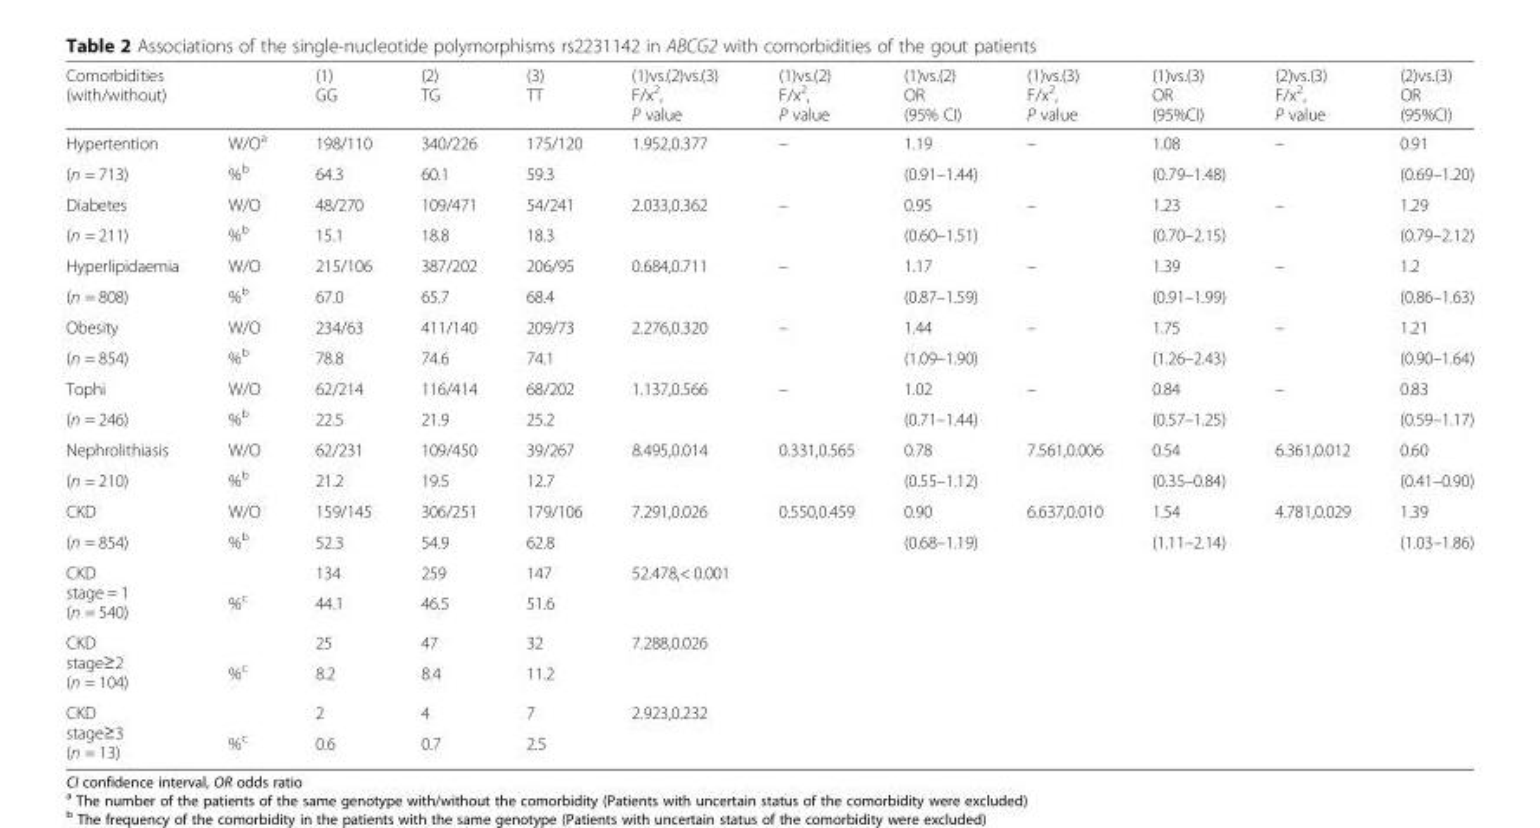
<table><thead><tr><td>Comorbidities (with/without)</td><td></td><td>(1) GG</td><td>(2) TG</td><td>(3) TT</td><td>(1)vs.(2)vs.(3) F/x<sup>2</sup>, P value</td><td>(1)vs.(2) F/x<sup>2</sup>, P value</td><td>(1)vs.(2) OR (95% CI)</td><td>(1)vs.(3) F/x<sup>2</sup>, P value</td><td>(1)vs.(3) OR (95%CI)</td><td>(2)vs.(3) F/x<sup>2</sup>, P value</td><td>(2)vs.(3) OR (95%CI)</td></tr></thead><tbody><tr><td>Hypertention</td><td>W/O<sup>a</sup></td><td>198/110</td><td>340/226</td><td>175/120</td><td>1.952,0.377</td><td>–</td><td>1.19</td><td>–</td><td>1.08</td><td>–</td><td>0.91</td></tr><tr><td>(n = 713)</td><td>%<sup>b</sup></td><td>64.3</td><td>60.1</td><td>59.3</td><td></td><td></td><td>(0.91–1.44)</td><td></td><td>(0.79–1.48)</td><td></td><td>(0.69–1.20)</td></tr><tr><td>Diabetes</td><td>W/O</td><td>48/270</td><td>109/471</td><td>54/241</td><td>2.033,0.362</td><td>–</td><td>0.95</td><td>–</td><td>1.23</td><td>–</td><td>1.29</td></tr><tr><td>(n = 211)</td><td>%<sup>b</sup></td><td>15.1</td><td>18.8</td><td>18.3</td><td></td><td></td><td>(0.60–1.51)</td><td></td><td>(0.70–2.15)</td><td></td><td>(0.79–2.12)</td></tr><tr><td>Hyperlipidaemia</td><td>W/O</td><td>215/106</td><td>387/202</td><td>206/95</td><td>0.684,0.711</td><td>–</td><td>1.17</td><td>–</td><td>1.39</td><td>–</td><td>1.2</td></tr><tr><td>(n = 808)</td><td>%<sup>b</sup></td><td>67.0</td><td>65.7</td><td>68.4</td><td></td><td></td><td>(0.87–1.59)</td><td></td><td>(0.91–1.99)</td><td></td><td>(0.86–1.63)</td></tr><tr><td>Obesity</td><td>W/O</td><td>234/63</td><td>411/140</td><td>209/73</td><td>2.276,0.320</td><td>–</td><td>1.44</td><td>–</td><td>1.75</td><td>–</td><td>1.21</td></tr><tr><td>(n = 854)</td><td>%<sup>b</sup></td><td>78.8</td><td>74.6</td><td>74.1</td><td></td><td></td><td>(1.09–1.90)</td><td></td><td>(1.26–2.43)</td><td></td><td>(0.90–1.64)</td></tr><tr><td>Tophi</td><td>W/O</td><td>62/214</td><td>116/414</td><td>68/202</td><td>1.137,0.566</td><td>–</td><td>1.02</td><td>–</td><td>0.84</td><td>–</td><td>0.83</td></tr><tr><td>(n = 246)</td><td>%<sup>b</sup></td><td>22.5</td><td>21.9</td><td>25.2</td><td></td><td></td><td>(0.71–1.44)</td><td></td><td>(0.57–1.25)</td><td></td><td>(0.59–1.17)</td></tr><tr><td>Nephrolithiasis</td><td>W/O</td><td>62/231</td><td>109/450</td><td>39/267</td><td>8.495,0.014</td><td>0.331,0.565</td><td>0.78</td><td>7.561,0.006</td><td>0.54</td><td>6.361,0.012</td><td>0.60</td></tr><tr><td>(n = 210)</td><td>%<sup>b</sup></td><td>21.2</td><td>19.5</td><td>12.7</td><td></td><td></td><td>(0.55–1.12)</td><td></td><td>(0.35–0.84)</td><td></td><td>(0.41–0.90)</td></tr><tr><td>CKD</td><td>W/O</td><td>159/145</td><td>306/251</td><td>179/106</td><td>7.291,0.026</td><td>0.550,0.459</td><td>0.90</td><td>6.637,0.010</td><td>1.54</td><td>4.781,0.029</td><td>1.39</td></tr><tr><td>(n = 854)</td><td>%<sup>b</sup></td><td>52.3</td><td>54.9</td><td>62.8</td><td></td><td></td><td>(0.68–1.19)</td><td></td><td>(1.11–2.14)</td><td></td><td>(1.03–1.86)</td></tr><tr><td rowspan="2">CKD stage = 1 (n = 540)</td><td></td><td>134</td><td>259</td><td>147</td><td>52.478,&lt; 0.001</td><td></td><td></td><td></td><td></td><td></td><td></td></tr><tr><td>%<sup>c</sup></td><td>44.1</td><td>46.5</td><td>51.6</td><td></td><td></td><td></td><td></td><td></td><td></td><td></td></tr><tr><td rowspan="2">CKD stage≥2 (n = 104)</td><td></td><td>25</td><td>47</td><td>32</td><td>7.288,0.026</td><td></td><td></td><td></td><td></td><td></td><td></td></tr><tr><td>%<sup>c</sup></td><td>8.2</td><td>8.4</td><td>11.2</td><td></td><td></td><td></td><td></td><td></td><td></td><td></td></tr><tr><td rowspan="2">CKD stage≥3 (n = 13)</td><td></td><td>2</td><td>4</td><td>7</td><td>2.923,0.232</td><td></td><td></td><td></td><td></td><td></td><td></td></tr><tr><td>%<sup>c</sup></td><td>0.6</td><td>0.7</td><td>2.5</td><td></td><td></td><td></td><td></td><td></td><td></td><td></td></tr></tbody></table>